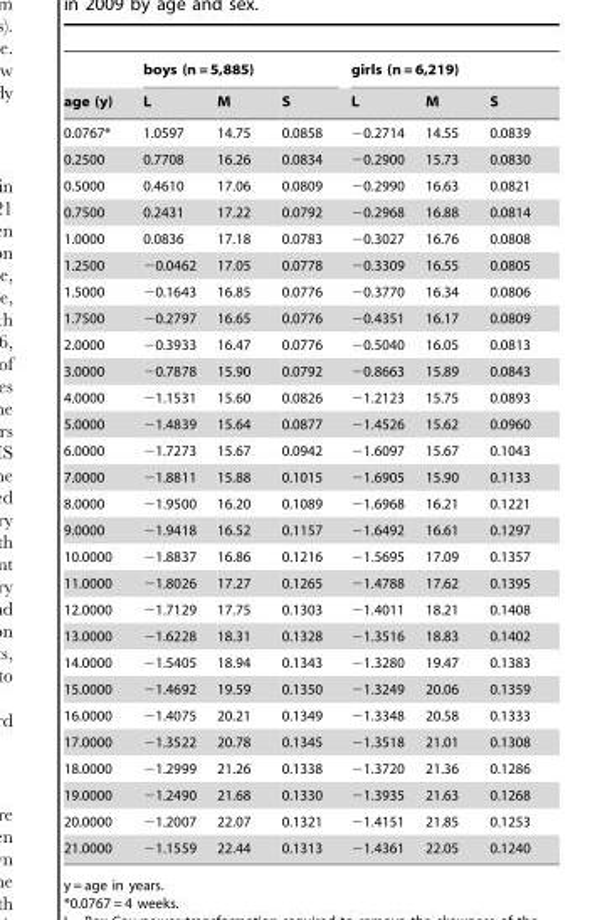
<table><thead><tr><td rowspan="2">age (y)</td><td colspan="3">boys (n = 5,885)</td><td colspan="3">girls (n = 6,219)</td></tr><tr><td>L</td><td>M</td><td>S</td><td>L</td><td>M</td><td>S</td></tr></thead><tbody><tr><td>0.0767*</td><td>1.0597</td><td>14.75</td><td>0.0858</td><td>−0.2714</td><td>14.55</td><td>0.0839</td></tr><tr><td>0.2500</td><td>0.7708</td><td>16.26</td><td>0.0834</td><td>−0.2900</td><td>15.73</td><td>0.0830</td></tr><tr><td>0.5000</td><td>0.4610</td><td>17.06</td><td>0.0809</td><td>−0.2990</td><td>16.63</td><td>0.0821</td></tr><tr><td>0.7500</td><td>0.2431</td><td>17.22</td><td>0.0792</td><td>−0.2968</td><td>16.88</td><td>0.0814</td></tr><tr><td>1.0000</td><td>0.0836</td><td>17.18</td><td>0.0783</td><td>−0.3027</td><td>16.76</td><td>0.0808</td></tr><tr><td>1.2500</td><td>−0.0462</td><td>17.05</td><td>0.0778</td><td>−0.3309</td><td>16.55</td><td>0.0805</td></tr><tr><td>1.5000</td><td>−0.1643</td><td>16.85</td><td>0.0776</td><td>−0.3770</td><td>16.34</td><td>0.0806</td></tr><tr><td>1.7500</td><td>−0.2797</td><td>16.65</td><td>0.0776</td><td>−0.4351</td><td>16.17</td><td>0.0809</td></tr><tr><td>2.0000</td><td>−0.3933</td><td>16.47</td><td>0.0776</td><td>−0.5040</td><td>16.05</td><td>0.0813</td></tr><tr><td>3.0000</td><td>−0.7878</td><td>15.90</td><td>0.0792</td><td>−0.8663</td><td>15.89</td><td>0.0843</td></tr><tr><td>4.0000</td><td>−1.1531</td><td>15.60</td><td>0.0826</td><td>−1.2123</td><td>15.75</td><td>0.0893</td></tr><tr><td>5.0000</td><td>−1.4839</td><td>15.64</td><td>0.0877</td><td>−1.4526</td><td>15.62</td><td>0.0960</td></tr><tr><td>6.0000</td><td>−1.7273</td><td>15.67</td><td>0.0942</td><td>−1.6097</td><td>15.67</td><td>0.1043</td></tr><tr><td>7.0000</td><td>−1.8811</td><td>15.88</td><td>0.1015</td><td>−1.6905</td><td>15.90</td><td>0.1133</td></tr><tr><td>8.0000</td><td>−1.9500</td><td>16.20</td><td>0.1089</td><td>−1.6968</td><td>16.21</td><td>0.1221</td></tr><tr><td>9.0000</td><td>−1.9418</td><td>16.52</td><td>0.1157</td><td>−1.6492</td><td>16.61</td><td>0.1297</td></tr><tr><td>10.0000</td><td>−1.8837</td><td>16.86</td><td>0.1216</td><td>−1.5695</td><td>17.09</td><td>0.1357</td></tr><tr><td>11.0000</td><td>−1.8026</td><td>17.27</td><td>0.1265</td><td>−1.4788</td><td>17.62</td><td>0.1395</td></tr><tr><td>12.0000</td><td>−1.7129</td><td>17.75</td><td>0.1303</td><td>−1.4011</td><td>18.21</td><td>0.1408</td></tr><tr><td>13.0000</td><td>−1.6228</td><td>18.31</td><td>0.1328</td><td>−1.3516</td><td>18.83</td><td>0.1402</td></tr><tr><td>14.0000</td><td>−1.5405</td><td>18.94</td><td>0.1343</td><td>−1.3280</td><td>19.47</td><td>0.1383</td></tr><tr><td>15.0000</td><td>−1.4692</td><td>19.59</td><td>0.1350</td><td>−1.3249</td><td>20.06</td><td>0.1359</td></tr><tr><td>16.0000</td><td>−1.4075</td><td>20.21</td><td>0.1349</td><td>−1.3348</td><td>20.58</td><td>0.1333</td></tr><tr><td>17.0000</td><td>−1.3522</td><td>20.78</td><td>0.1345</td><td>−1.3518</td><td>21.01</td><td>0.1308</td></tr><tr><td>18.0000</td><td>−1.2999</td><td>21.26</td><td>0.1338</td><td>−1.3720</td><td>21.36</td><td>0.1286</td></tr><tr><td>19.0000</td><td>−1.2490</td><td>21.68</td><td>0.1330</td><td>−1.3935</td><td>21.63</td><td>0.1268</td></tr><tr><td>20.0000</td><td>−1.2007</td><td>22.07</td><td>0.1321</td><td>−1.4151</td><td>21.85</td><td>0.1253</td></tr><tr><td>21.0000</td><td>−1.1559</td><td>22.44</td><td>0.1313</td><td>−1.4361</td><td>22.05</td><td>0.1240</td></tr></tbody></table>